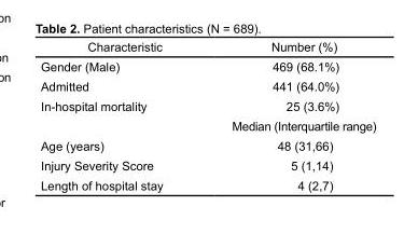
<table><thead><tr><td>Characteristic</td><td>Number (%)</td></tr></thead><tbody><tr><td>Gender (Male)</td><td>469 (68.1%)</td></tr><tr><td>Admitted</td><td>441 (64.0%)</td></tr><tr><td rowspan="2">In-hospital mortality</td><td>25 (3.6%)</td></tr><tr><td>Median (Interquartile range)</td></tr><tr><td>Age (years)</td><td>48 (31,66)</td></tr><tr><td>Injury Severity Score</td><td>5 (1,14)</td></tr><tr><td>Length of hospital stay</td><td>4 (2,7)</td></tr></tbody></table>